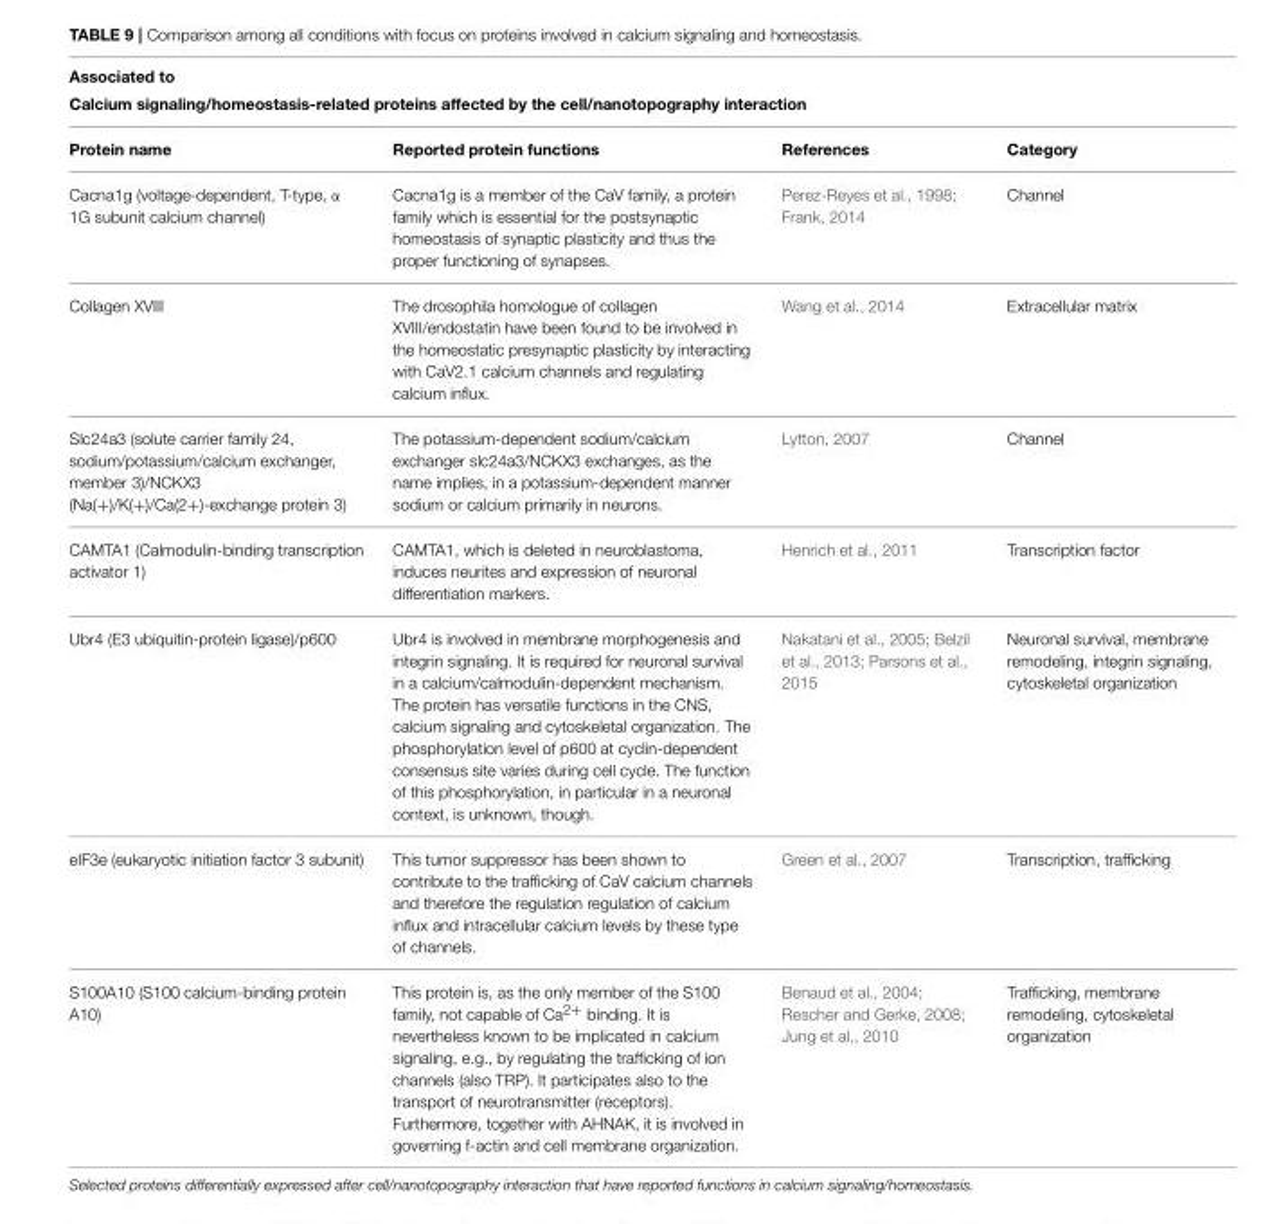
<table><thead><tr><td colspan="4">Associated to Calcium signaling/homeostasis-related proteins affected by the cell/nanotopography interaction</td></tr><tr><td>Protein name</td><td>Reported protein functions</td><td>References</td><td>Category</td></tr></thead><tbody><tr><td>Cacna1g (voltage-dependent, T-type, α 1G subunit calcium channel)</td><td>Cacna1g is a member of the CaV family, a protein family which is essential for the postsynaptic homeostasis of synaptic plasticity and thus the proper functioning of synapses.</td><td>Perez-Reyes et al., 1998; Frank, 2014</td><td>Channel</td></tr><tr><td>Collagen XVIII</td><td>The drosophila homologue of collagen XVIII/endostatin have been found to be involved in the homeostatic presynaptic plasticity by interacting with CaV2.1 calcium channels and regulating calcium influx.</td><td>Wang et al., 2014</td><td>Extracellular matrix</td></tr><tr><td>Slc24a3 (solute carrier family 24, sodium/potassium/calcium exchanger, member 3)/NCKX3 (Na(+)/K(+)/Ca(2+)-exchange protein 3)</td><td>The potassium-dependent sodium/calcium exchanger slc24a3/NCKX3 exchanges, as the name implies, in a potassium-dependent manner sodium or calcium primarily in neurons.</td><td>Lytton, 2007</td><td>Channel</td></tr><tr><td>CAMTA1 (Calmodulin-binding transcription activator 1)</td><td>CAMTA1, which is deleted in neuroblastoma, induces neurites and expression of neuronal differentiation markers.</td><td>Henrich et al., 2011</td><td>Transcription factor</td></tr><tr><td>Ubr4 (E3 ubiquitin-protein ligase)/p600</td><td>Ubr4 is involved in membrane morphogenesis and integrin signaling. It is required for neuronal survival in a calcium/calmodulin-dependent mechanism. The protein has versatile functions in the CNS, calcium signaling and cytoskeletal organization. The phosphorylation level of p600 at cyclin-dependent consensus site varies during cell cycle. The function of this phosphorylation, in particular in a neuronal context, is unknown, though.</td><td>Nakatani et al., 2005; Belzil et al., 2013; Parsons et al., 2015</td><td>Neuronal survival, membrane remodeling, integrin signaling, cytoskeletal organization</td></tr><tr><td>eIF3e (eukaryotic initiation factor 3 subunit)</td><td>This tumor suppressor has been shown to contribute to the trafficking of CaV calcium channels and therefore the regulation regulation of calcium influx and intracellular calcium levels by these type of channels.</td><td>Green et al., 2007</td><td>Transcription, trafficking</td></tr><tr><td>S100A10 (S100 calcium-binding protein A10)</td><td>This protein is, as the only member of the S100 family, not capable of Ca<sup>2+</sup> binding. It is nevertheless known to be implicated in calcium signaling, e.g., by regulating the trafficking of ion channels (also TRP). It participates also to the transport of neurotransmitter (receptors). Furthermore, together with AHNAK, it is involved in governing f-actin and cell membrane organization.</td><td>Benaud et al., 2004; Rescher and Gerke, 2008; Jung et al., 2010</td><td>Trafficking, membrane remodeling, cytoskeletal organization</td></tr></tbody></table>